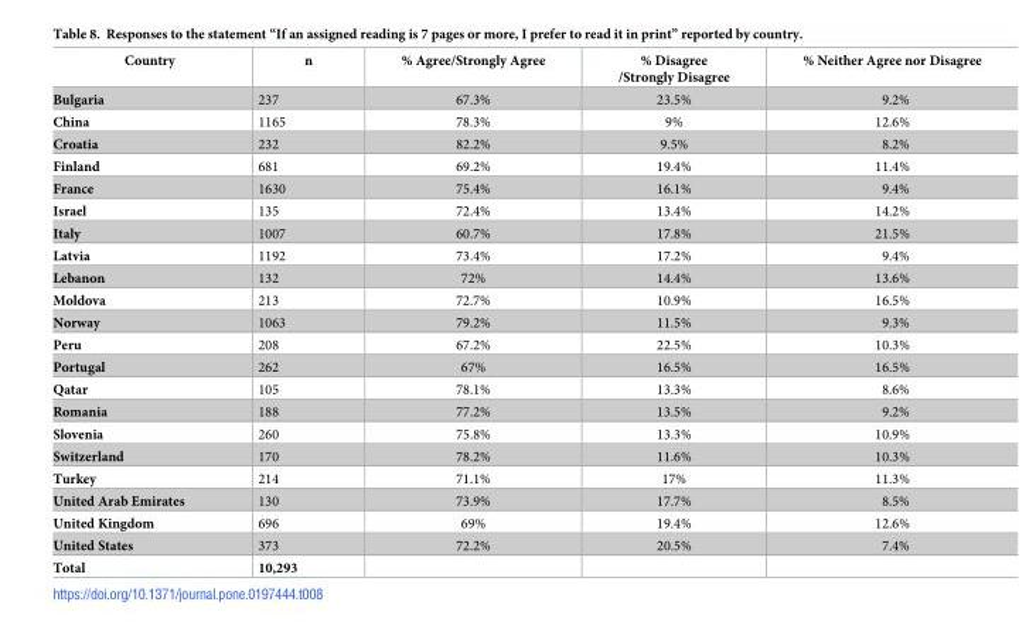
<table><thead><tr><td>Country</td><td>n</td><td>% Agree/Strongly Agree</td><td>% Disagree /Strongly Disagree</td><td>% Neither Agree nor Disagree</td></tr></thead><tbody><tr><td>Bulgaria</td><td>237</td><td>67.3%</td><td>23.5%</td><td>9.2%</td></tr><tr><td>China</td><td>1165</td><td>78.3%</td><td>9%</td><td>12.6%</td></tr><tr><td>Croatia</td><td>232</td><td>82.2%</td><td>9.5%</td><td>8.2%</td></tr><tr><td>Finland</td><td>681</td><td>69.2%</td><td>19.4%</td><td>11.4%</td></tr><tr><td>France</td><td>1630</td><td>75.4%</td><td>16.1%</td><td>9.4%</td></tr><tr><td>Israel</td><td>135</td><td>72.4%</td><td>13.4%</td><td>14.2%</td></tr><tr><td>Italy</td><td>1007</td><td>60.7%</td><td>17.8%</td><td>21.5%</td></tr><tr><td>Latvia</td><td>1192</td><td>73.4%</td><td>17.2%</td><td>9.4%</td></tr><tr><td>Lebanon</td><td>132</td><td>72%</td><td>14.4%</td><td>13.6%</td></tr><tr><td>Moldova</td><td>213</td><td>72.7%</td><td>10.9%</td><td>16.5%</td></tr><tr><td>Norway</td><td>1063</td><td>79.2%</td><td>11.5%</td><td>9.3%</td></tr><tr><td>Peru</td><td>208</td><td>67.2%</td><td>22.5%</td><td>10.3%</td></tr><tr><td>Portugal</td><td>262</td><td>67%</td><td>16.5%</td><td>16.5%</td></tr><tr><td>Qatar</td><td>105</td><td>78.1%</td><td>13.3%</td><td>8.6%</td></tr><tr><td>Romania</td><td>188</td><td>77.2%</td><td>13.5%</td><td>9.2%</td></tr><tr><td>Slovenia</td><td>260</td><td>75.8%</td><td>13.3%</td><td>10.9%</td></tr><tr><td>Switzerland</td><td>170</td><td>78.2%</td><td>11.6%</td><td>10.3%</td></tr><tr><td>Turkey</td><td>214</td><td>71.1%</td><td>17%</td><td>11.3%</td></tr><tr><td>United Arab Emirates</td><td>130</td><td>73.9%</td><td>17.7%</td><td>8.5%</td></tr><tr><td>United Kingdom</td><td>696</td><td>69%</td><td>19.4%</td><td>12.6%</td></tr><tr><td>United States</td><td>373</td><td>72.2%</td><td>20.5%</td><td>7.4%</td></tr><tr><td>Total</td><td>10,293</td><td></td><td></td><td></td></tr></tbody></table>